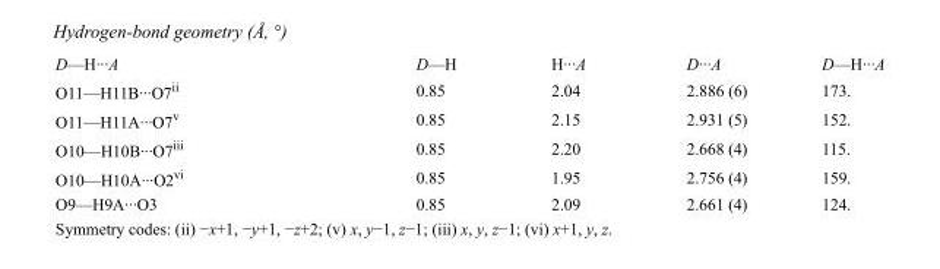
<table><tbody><tr><td>D—H···A</td><td>D—H</td><td>H···A</td><td>D···A</td><td>D—H···A</td></tr><tr><td>O11—H11B···O7<sup>ii</sup></td><td>0.85</td><td>2.04</td><td>2.886 (6)</td><td>173.</td></tr><tr><td>O11—H11A···O7<sup>v</sup></td><td>0.85</td><td>2.15</td><td>2.931 (5)</td><td>152.</td></tr><tr><td>O10—H10B···O7<sup>iii</sup></td><td>0.85</td><td>2.20</td><td>2.668 (4)</td><td>115.</td></tr><tr><td>O10—H10A···O2<sup>vi</sup></td><td>0.85</td><td>1.95</td><td>2.756 (4)</td><td>159.</td></tr><tr><td>O9—H9A···O3</td><td>0.85</td><td>2.09</td><td>2.661 (4)</td><td>124.</td></tr></tbody></table>